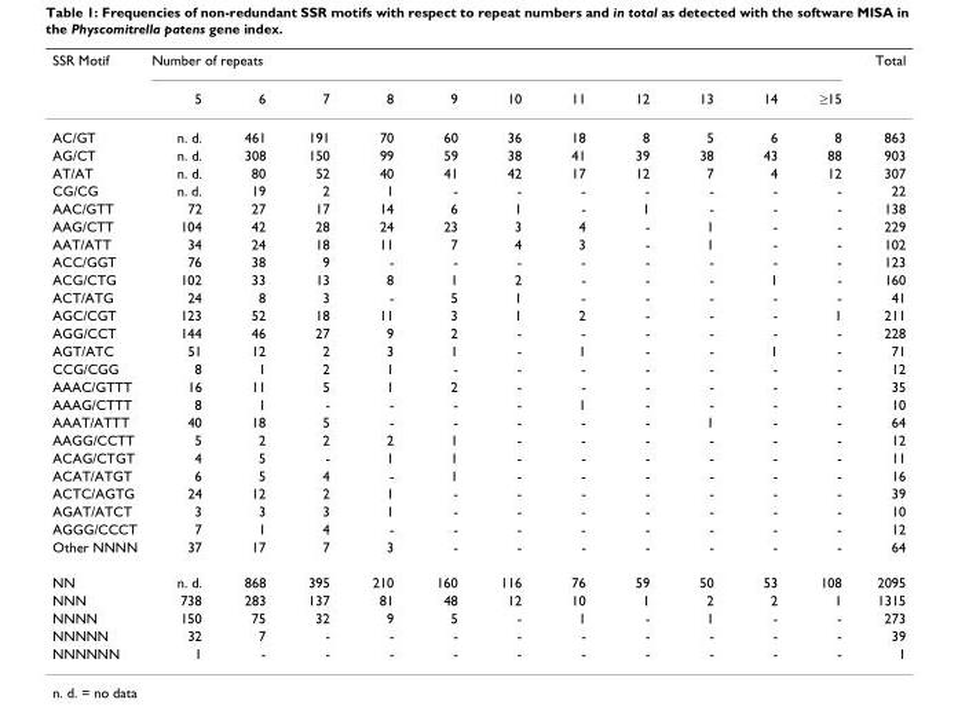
<table><thead><tr><td rowspan="2">SSR Motif</td><td colspan="11">Number of repeats</td><td rowspan="2">Total</td></tr><tr><td>5</td><td>6</td><td>7</td><td>8</td><td>9</td><td>10</td><td>11</td><td>12</td><td>13</td><td>14</td><td>≥15</td></tr></thead><tbody><tr><td>AC/GT</td><td>n. d.</td><td>461</td><td>191</td><td>70</td><td>60</td><td>36</td><td>18</td><td>8</td><td>5</td><td>6</td><td>8</td><td>863</td></tr><tr><td>AG/CT</td><td>n. d.</td><td>308</td><td>150</td><td>99</td><td>59</td><td>38</td><td>41</td><td>39</td><td>38</td><td>43</td><td>88</td><td>903</td></tr><tr><td>AT/AT</td><td>n. d.</td><td>80</td><td>52</td><td>40</td><td>41</td><td>42</td><td>17</td><td>12</td><td>7</td><td>4</td><td>12</td><td>307</td></tr><tr><td>CG/CG</td><td>n. d.</td><td>19</td><td>2</td><td>1</td><td>-</td><td>-</td><td>-</td><td>-</td><td>-</td><td>-</td><td>-</td><td>22</td></tr><tr><td>AAC/GTT</td><td>72</td><td>27</td><td>17</td><td>14</td><td>6</td><td>1</td><td>-</td><td>1</td><td>-</td><td>-</td><td>-</td><td>138</td></tr><tr><td>AAG/CTT</td><td>104</td><td>42</td><td>28</td><td>24</td><td>23</td><td>3</td><td>4</td><td>-</td><td>1</td><td>-</td><td>-</td><td>229</td></tr><tr><td>AAT/ATT</td><td>34</td><td>24</td><td>18</td><td>11</td><td>7</td><td>4</td><td>3</td><td>-</td><td>1</td><td>-</td><td>-</td><td>102</td></tr><tr><td>ACC/GGT</td><td>76</td><td>38</td><td>9</td><td>-</td><td>-</td><td>-</td><td>-</td><td>-</td><td>-</td><td>-</td><td>-</td><td>123</td></tr><tr><td>ACG/CTG</td><td>102</td><td>33</td><td>13</td><td>8</td><td>1</td><td>2</td><td>-</td><td>-</td><td>-</td><td>1</td><td>-</td><td>160</td></tr><tr><td>ACT/ATG</td><td>24</td><td>8</td><td>3</td><td>-</td><td>5</td><td>1</td><td>-</td><td>-</td><td>-</td><td>-</td><td>-</td><td>41</td></tr><tr><td>AGC/CGT</td><td>123</td><td>52</td><td>18</td><td>11</td><td>3</td><td>1</td><td>2</td><td>-</td><td>-</td><td>-</td><td>1</td><td>211</td></tr><tr><td>AGG/CCT</td><td>144</td><td>46</td><td>27</td><td>9</td><td>2</td><td>-</td><td>-</td><td>-</td><td>-</td><td>-</td><td>-</td><td>228</td></tr><tr><td>AGT/ATC</td><td>51</td><td>12</td><td>2</td><td>3</td><td>1</td><td>-</td><td>1</td><td>-</td><td>-</td><td>1</td><td>-</td><td>71</td></tr><tr><td>CCG/CGG</td><td>8</td><td>1</td><td>2</td><td>1</td><td>-</td><td>-</td><td>-</td><td>-</td><td>-</td><td>-</td><td>-</td><td>12</td></tr><tr><td>AAAC/GTTT</td><td>16</td><td>11</td><td>5</td><td>1</td><td>2</td><td>-</td><td>-</td><td>-</td><td>-</td><td>-</td><td>-</td><td>35</td></tr><tr><td>AAAG/CTTT</td><td>8</td><td>1</td><td>-</td><td>-</td><td>-</td><td>-</td><td>1</td><td>-</td><td>-</td><td>-</td><td>-</td><td>10</td></tr><tr><td>AAAT/ATTT</td><td>40</td><td>18</td><td>5</td><td>-</td><td>-</td><td>-</td><td>-</td><td>-</td><td>1</td><td>-</td><td>-</td><td>64</td></tr><tr><td>AAGG/CCTT</td><td>5</td><td>2</td><td>2</td><td>2</td><td>1</td><td>-</td><td>-</td><td>-</td><td>-</td><td>-</td><td>-</td><td>12</td></tr><tr><td>ACAG/CTGT</td><td>4</td><td>5</td><td>-</td><td>1</td><td>1</td><td>-</td><td>-</td><td>-</td><td>-</td><td>-</td><td>-</td><td>11</td></tr><tr><td>ACAT/ATGT</td><td>6</td><td>5</td><td>4</td><td>-</td><td>1</td><td>-</td><td>-</td><td>-</td><td>-</td><td>-</td><td>-</td><td>16</td></tr><tr><td>ACTC/AGTG</td><td>24</td><td>12</td><td>2</td><td>1</td><td>-</td><td>-</td><td>-</td><td>-</td><td>-</td><td>-</td><td>-</td><td>39</td></tr><tr><td>AGAT/ATCT</td><td>3</td><td>3</td><td>3</td><td>1</td><td>-</td><td>-</td><td>-</td><td>-</td><td>-</td><td>-</td><td>-</td><td>10</td></tr><tr><td>AGGG/CCCT</td><td>7</td><td>1</td><td>4</td><td>-</td><td>-</td><td>-</td><td>-</td><td>-</td><td>-</td><td>-</td><td>-</td><td>12</td></tr><tr><td>Other NNNN</td><td>37</td><td>17</td><td>7</td><td>3</td><td>-</td><td>-</td><td>-</td><td>-</td><td>-</td><td>-</td><td>-</td><td>64</td></tr><tr><td>NN</td><td>n. d.</td><td>868</td><td>395</td><td>210</td><td>160</td><td>116</td><td>76</td><td>59</td><td>50</td><td>53</td><td>108</td><td>2095</td></tr><tr><td>NNN</td><td>738</td><td>283</td><td>137</td><td>81</td><td>48</td><td>12</td><td>10</td><td>1</td><td>2</td><td>2</td><td>1</td><td>1315</td></tr><tr><td>NNNN</td><td>150</td><td>75</td><td>32</td><td>9</td><td>5</td><td>-</td><td>1</td><td>-</td><td>1</td><td>-</td><td>-</td><td>273</td></tr><tr><td>NNNNN</td><td>32</td><td>7</td><td>-</td><td>-</td><td>-</td><td>-</td><td>-</td><td>-</td><td>-</td><td>-</td><td>-</td><td>39</td></tr><tr><td>NNNNNN</td><td>1</td><td>-</td><td>-</td><td>-</td><td>-</td><td>-</td><td>-</td><td>-</td><td>-</td><td>-</td><td>-</td><td>1</td></tr></tbody></table>